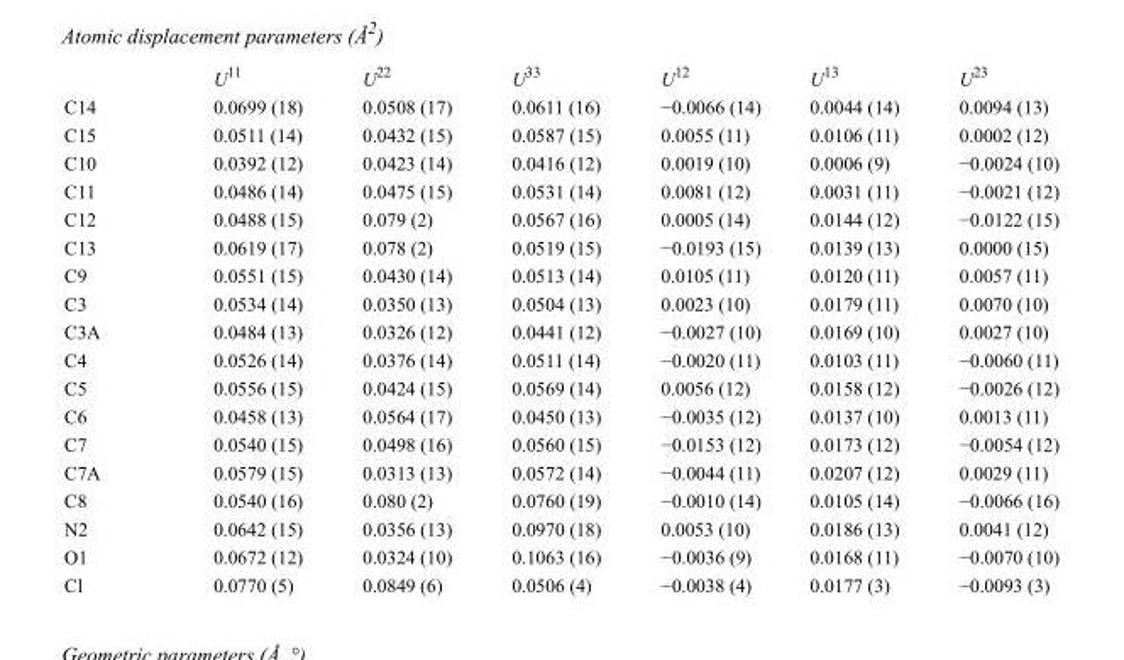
<table><thead><tr><td></td><td>U<sup>11</sup></td><td>U<sup>22</sup></td><td>U<sup>33</sup></td><td>U<sup>12</sup></td><td>U<sup>13</sup></td><td>U<sup>23</sup></td></tr></thead><tbody><tr><td>C14</td><td>0.0699 (18)</td><td>0.0508 (17)</td><td>0.0611 (16)</td><td>−0.0066 (14)</td><td>0.0044 (14)</td><td>0.0094 (13)</td></tr><tr><td>C15</td><td>0.0511 (14)</td><td>0.0432 (15)</td><td>0.0587 (15)</td><td>0.0055 (11)</td><td>0.0106 (11)</td><td>0.0002 (12)</td></tr><tr><td>C10</td><td>0.0392 (12)</td><td>0.0423 (14)</td><td>0.0416 (12)</td><td>0.0019 (10)</td><td>0.0006 (9)</td><td>−0.0024 (10)</td></tr><tr><td>C11</td><td>0.0486 (14)</td><td>0.0475 (15)</td><td>0.0531 (14)</td><td>0.0081 (12)</td><td>0.0031 (11)</td><td>−0.0021 (12)</td></tr><tr><td>C12</td><td>0.0488 (15)</td><td>0.079 (2)</td><td>0.0567 (16)</td><td>0.0005 (14)</td><td>0.0144 (12)</td><td>−0.0122 (15)</td></tr><tr><td>C13</td><td>0.0619 (17)</td><td>0.078 (2)</td><td>0.0519 (15)</td><td>−0.0193 (15)</td><td>0.0139 (13)</td><td>0.0000 (15)</td></tr><tr><td>C9</td><td>0.0551 (15)</td><td>0.0430 (14)</td><td>0.0513 (14)</td><td>0.0105 (11)</td><td>0.0120 (11)</td><td>0.0057 (11)</td></tr><tr><td>C3</td><td>0.0534 (14)</td><td>0.0350 (13)</td><td>0.0504 (13)</td><td>0.0023 (10)</td><td>0.0179 (11)</td><td>0.0070 (10)</td></tr><tr><td>C3A</td><td>0.0484 (13)</td><td>0.0326 (12)</td><td>0.0441 (12)</td><td>−0.0027 (10)</td><td>0.0169 (10)</td><td>0.0027 (10)</td></tr><tr><td>C4</td><td>0.0526 (14)</td><td>0.0376 (14)</td><td>0.0511 (14)</td><td>−0.0020 (11)</td><td>0.0103 (11)</td><td>−0.0060 (11)</td></tr><tr><td>C5</td><td>0.0556 (15)</td><td>0.0424 (15)</td><td>0.0569 (14)</td><td>0.0056 (12)</td><td>0.0158 (12)</td><td>−0.0026 (12)</td></tr><tr><td>C6</td><td>0.0458 (13)</td><td>0.0564 (17)</td><td>0.0450 (13)</td><td>−0.0035 (12)</td><td>0.0137 (10)</td><td>0.0013 (11)</td></tr><tr><td>C7</td><td>0.0540 (15)</td><td>0.0498 (16)</td><td>0.0560 (15)</td><td>−0.0153 (12)</td><td>0.0173 (12)</td><td>−0.0054 (12)</td></tr><tr><td>C7A</td><td>0.0579 (15)</td><td>0.0313 (13)</td><td>0.0572 (14)</td><td>−0.0044 (11)</td><td>0.0207 (12)</td><td>0.0029 (11)</td></tr><tr><td>C8</td><td>0.0540 (16)</td><td>0.080 (2)</td><td>0.0760 (19)</td><td>−0.0010 (14)</td><td>0.0105 (14)</td><td>−0.0066 (16)</td></tr><tr><td>N2</td><td>0.0642 (15)</td><td>0.0356 (13)</td><td>0.0970 (18)</td><td>0.0053 (10)</td><td>0.0186 (13)</td><td>0.0041 (12)</td></tr><tr><td>O1</td><td>0.0672 (12)</td><td>0.0324 (10)</td><td>0.1063 (16)</td><td>−0.0036 (9)</td><td>0.0168 (11)</td><td>−0.0070 (10)</td></tr><tr><td>Cl</td><td>0.0770 (5)</td><td>0.0849 (6)</td><td>0.0506 (4)</td><td>−0.0038 (4)</td><td>0.0177 (3)</td><td>−0.0093 (3)</td></tr></tbody></table>